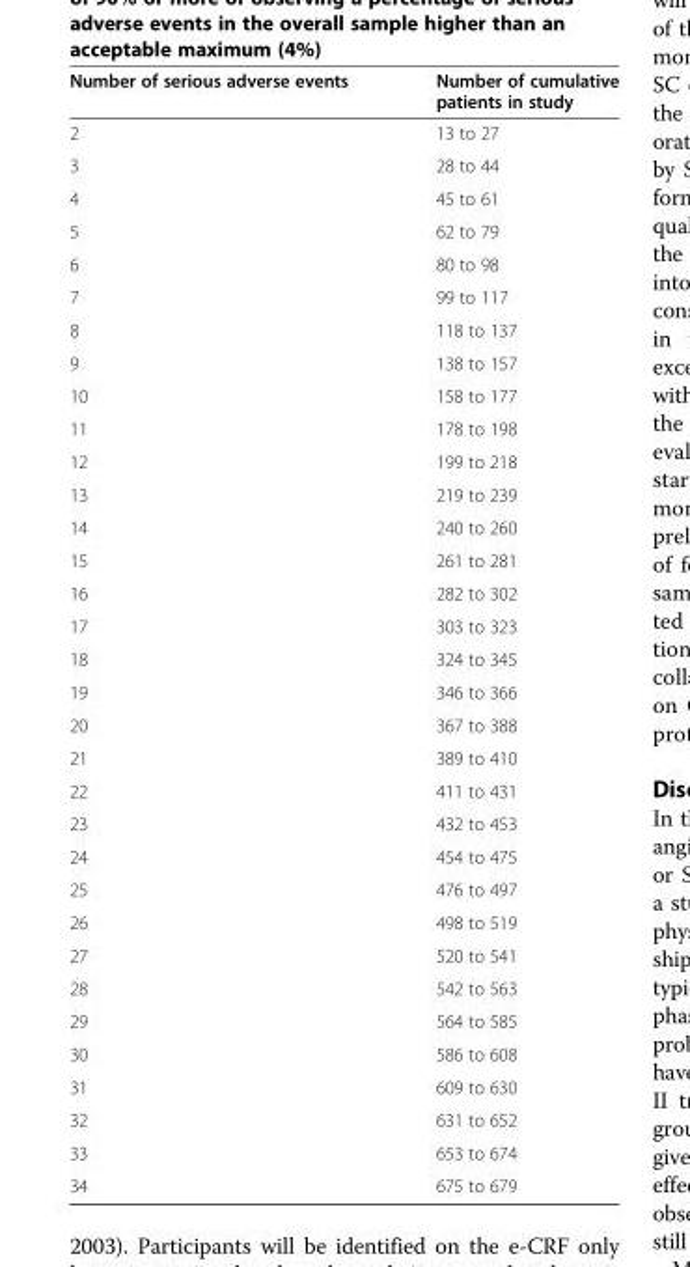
<table><thead><tr><td>Number of serious adverse events</td><td>Number of cumulative patients in study</td></tr></thead><tbody><tr><td>2</td><td>13 to 27</td></tr><tr><td>3</td><td>28 to 44</td></tr><tr><td>4</td><td>45 to 61</td></tr><tr><td>5</td><td>62 to 79</td></tr><tr><td>6</td><td>80 to 98</td></tr><tr><td>7</td><td>99 to 117</td></tr><tr><td>8</td><td>118 to 137</td></tr><tr><td>9</td><td>138 to 157</td></tr><tr><td>10</td><td>158 to 177</td></tr><tr><td>11</td><td>178 to 198</td></tr><tr><td>12</td><td>199 to 218</td></tr><tr><td>13</td><td>219 to 239</td></tr><tr><td>14</td><td>240 to 260</td></tr><tr><td>15</td><td>261 to 281</td></tr><tr><td>16</td><td>282 to 302</td></tr><tr><td>17</td><td>303 to 323</td></tr><tr><td>18</td><td>324 to 345</td></tr><tr><td>19</td><td>346 to 366</td></tr><tr><td>20</td><td>367 to 388</td></tr><tr><td>21</td><td>389 to 410</td></tr><tr><td>22</td><td>411 to 431</td></tr><tr><td>23</td><td>432 to 453</td></tr><tr><td>24</td><td>454 to 475</td></tr><tr><td>25</td><td>476 to 497</td></tr><tr><td>26</td><td>498 to 519</td></tr><tr><td>27</td><td>520 to 541</td></tr><tr><td>28</td><td>542 to 563</td></tr><tr><td>29</td><td>564 to 585</td></tr><tr><td>30</td><td>586 to 608</td></tr><tr><td>31</td><td>609 to 630</td></tr><tr><td>32</td><td>631 to 652</td></tr><tr><td>33</td><td>653 to 674</td></tr><tr><td>34</td><td>675 to 679</td></tr></tbody></table>